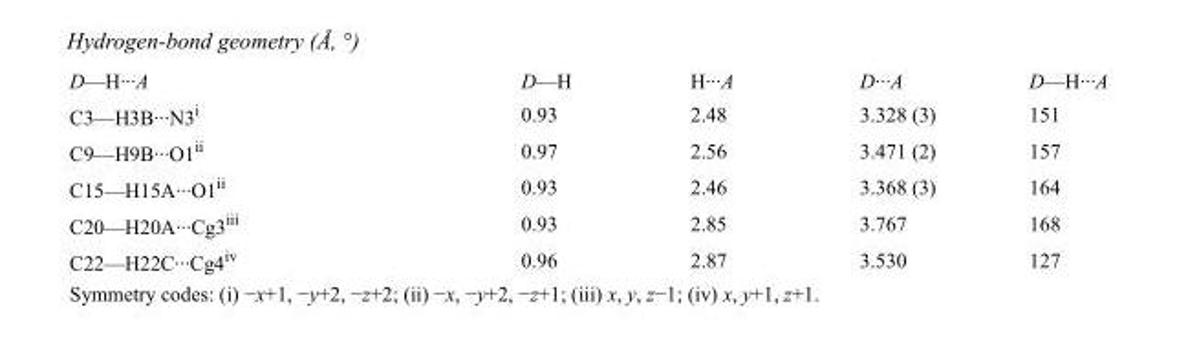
<table><tbody><tr><td>D—H···A</td><td>D—H</td><td>H···A</td><td>D···A</td><td>D—H···A</td></tr><tr><td>C3—H3B···N3<sup>i</sup></td><td>0.93</td><td>2.48</td><td>3.328 (3)</td><td>151</td></tr><tr><td>C9—H9B···O1<sup>ii</sup></td><td>0.97</td><td>2.56</td><td>3.471 (2)</td><td>157</td></tr><tr><td>C15—H15A···O1<sup>ii</sup></td><td>0.93</td><td>2.46</td><td>3.368 (3)</td><td>164</td></tr><tr><td>C20—H20A···Cg3<sup>iii</sup></td><td>0.93</td><td>2.85</td><td>3.767</td><td>168</td></tr><tr><td>C22—H22C···Cg4<sup>iv</sup></td><td>0.96</td><td>2.87</td><td>3.530</td><td>127</td></tr></tbody></table>